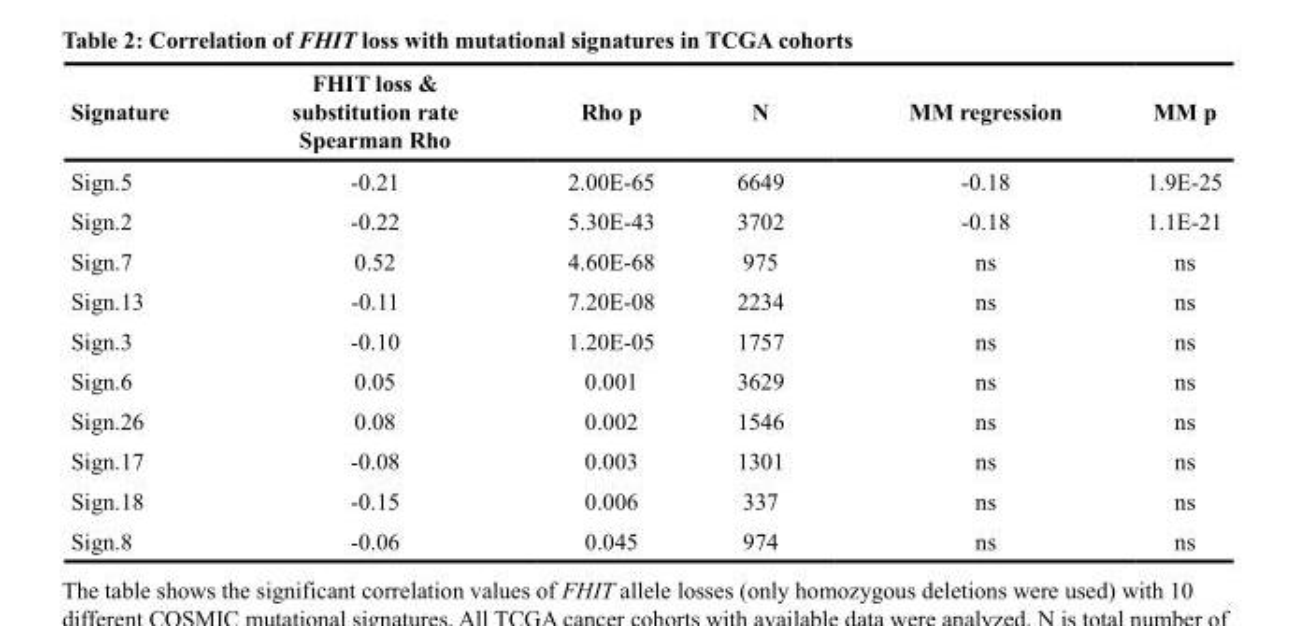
<table><thead><tr><td>Signature</td><td>FHIT loss &amp; substitution rate Spearman Rho</td><td>Rho p</td><td>N</td><td>MM regression</td><td>MM p</td></tr></thead><tbody><tr><td>Sign.5</td><td>-0.21</td><td>2.00E-65</td><td>6649</td><td>-0.18</td><td>1.9E-25</td></tr><tr><td>Sign.2</td><td>-0.22</td><td>5.30E-43</td><td>3702</td><td>-0.18</td><td>1.1E-21</td></tr><tr><td>Sign.7</td><td>0.52</td><td>4.60E-68</td><td>975</td><td>ns</td><td>ns</td></tr><tr><td>Sign.13</td><td>-0.11</td><td>7.20E-08</td><td>2234</td><td>ns</td><td>ns</td></tr><tr><td>Sign.3</td><td>-0.10</td><td>1.20E-05</td><td>1757</td><td>ns</td><td>ns</td></tr><tr><td>Sign.6</td><td>0.05</td><td>0.001</td><td>3629</td><td>ns</td><td>ns</td></tr><tr><td>Sign.26</td><td>0.08</td><td>0.002</td><td>1546</td><td>ns</td><td>ns</td></tr><tr><td>Sign.17</td><td>-0.08</td><td>0.003</td><td>1301</td><td>ns</td><td>ns</td></tr><tr><td>Sign.18</td><td>-0.15</td><td>0.006</td><td>337</td><td>ns</td><td>ns</td></tr><tr><td>Sign.8</td><td>-0.06</td><td>0.045</td><td>974</td><td>ns</td><td>ns</td></tr></tbody></table>